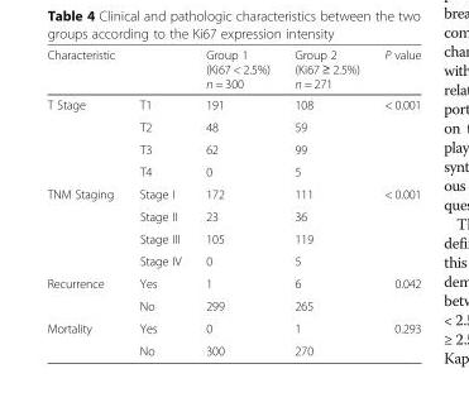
<table><thead><tr><td>Characteristic</td><td></td><td>Group 1 (Ki67 &lt; 2.5%) n = 300</td><td>Group 2 (Ki67 ≥ 2.5%) n = 271</td><td>P value</td></tr></thead><tbody><tr><td rowspan="4">T Stage</td><td>T1</td><td>191</td><td>108</td><td>&lt; 0.001</td></tr><tr><td>T2</td><td>48</td><td>59</td><td></td></tr><tr><td>T3</td><td>62</td><td>99</td><td></td></tr><tr><td>T4</td><td>0</td><td>5</td><td></td></tr><tr><td rowspan="4">TNM Staging</td><td>Stage I</td><td>172</td><td>111</td><td>&lt; 0.001</td></tr><tr><td>Stage II</td><td>23</td><td>36</td><td></td></tr><tr><td>Stage III</td><td>105</td><td>119</td><td></td></tr><tr><td>Stage IV</td><td>0</td><td>5</td><td></td></tr><tr><td rowspan="2">Recurrence</td><td>Yes</td><td>1</td><td>6</td><td>0.042</td></tr><tr><td>No</td><td>299</td><td>265</td><td></td></tr><tr><td rowspan="2">Mortality</td><td>Yes</td><td>0</td><td>1</td><td>0.293</td></tr><tr><td>No</td><td>300</td><td>270</td><td></td></tr></tbody></table>